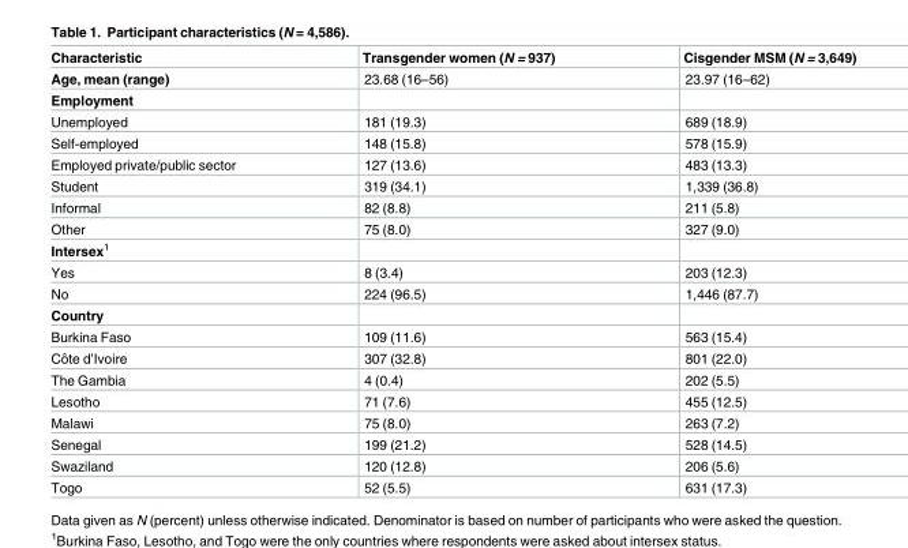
<table><thead><tr><td>Characteristic</td><td>Transgender women (N = 937)</td><td>Cisgender MSM (N = 3,649)</td></tr></thead><tbody><tr><td>Age, mean (range)</td><td>23.68 (16–56)</td><td>23.97 (16–62)</td></tr><tr><td colspan="3">Employment</td></tr><tr><td>Unemployed</td><td>181 (19.3)</td><td>689 (18.9)</td></tr><tr><td>Self-employed</td><td>148 (15.8)</td><td>578 (15.9)</td></tr><tr><td>Employed private/public sector</td><td>127 (13.6)</td><td>483 (13.3)</td></tr><tr><td>Student</td><td>319 (34.1)</td><td>1,339 (36.8)</td></tr><tr><td>Informal</td><td>82 (8.8)</td><td>211 (5.8)</td></tr><tr><td>Other</td><td>75 (8.0)</td><td>327 (9.0)</td></tr><tr><td colspan="3">Intersex<sup>1</sup></td></tr><tr><td>Yes</td><td>8 (3.4)</td><td>203 (12.3)</td></tr><tr><td>No</td><td>224 (96.5)</td><td>1,446 (87.7)</td></tr><tr><td colspan="3">Country</td></tr><tr><td>Burkina Faso</td><td>109 (11.6)</td><td>563 (15.4)</td></tr><tr><td>Coˆte d’Ivoire</td><td>307 (32.8)</td><td>801 (22.0)</td></tr><tr><td>The Gambia</td><td>4 (0.4)</td><td>202 (5.5)</td></tr><tr><td>Lesotho</td><td>71 (7.6)</td><td>455 (12.5)</td></tr><tr><td>Malawi</td><td>75 (8.0)</td><td>263 (7.2)</td></tr><tr><td>Senegal</td><td>199 (21.2)</td><td>528 (14.5)</td></tr><tr><td>Swaziland</td><td>120 (12.8)</td><td>206 (5.6)</td></tr><tr><td>Togo</td><td>52 (5.5)</td><td>631 (17.3)</td></tr></tbody></table>